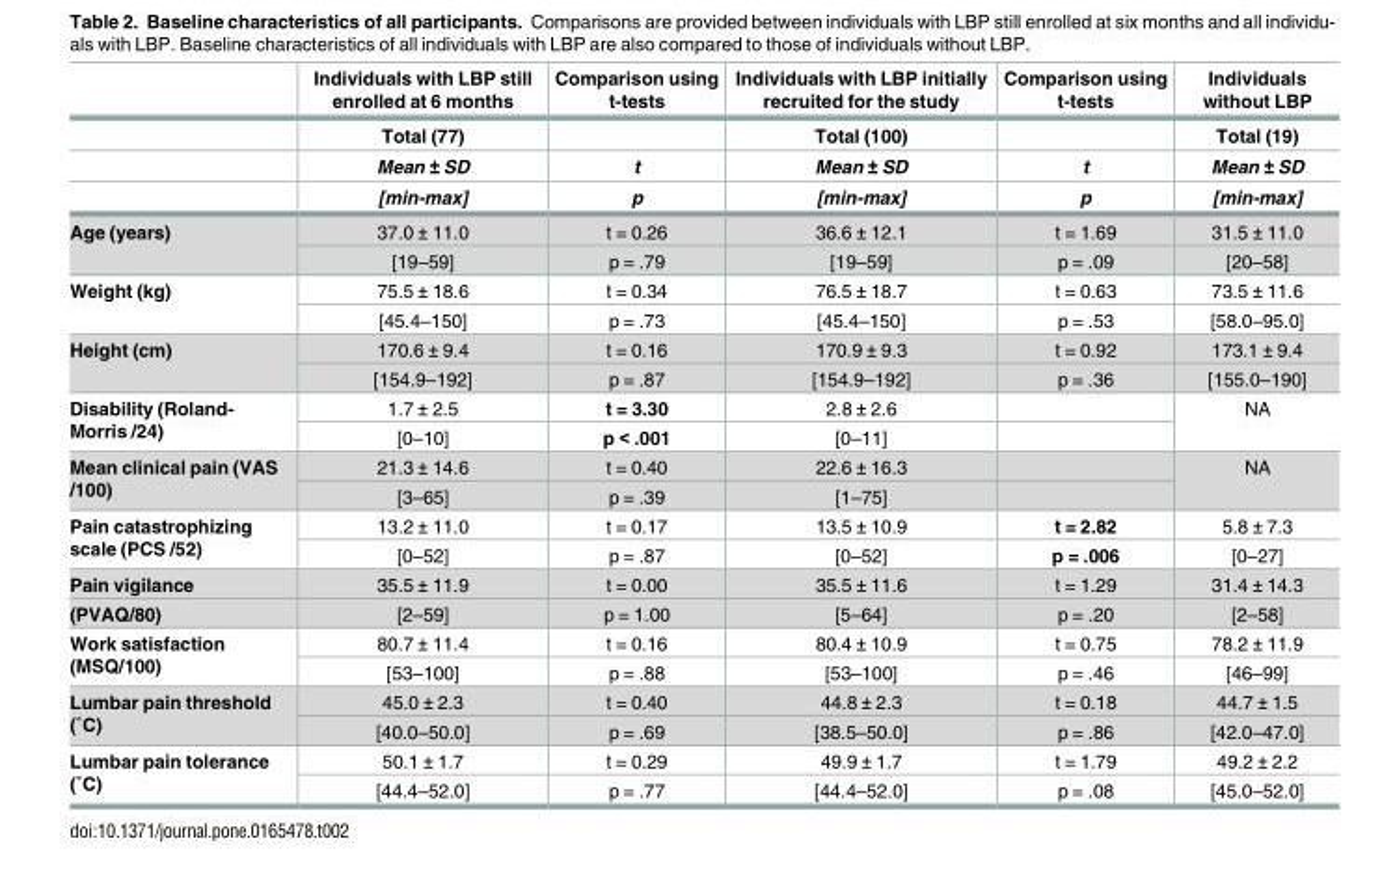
<table><thead><tr><td rowspan="4"></td><td rowspan="4">Individuals with LBP still enrolled at 6 months Total (77) Mean ± SD [min-max]</td><td rowspan="4">Comparison using t-tests t p</td><td rowspan="4">Individuals with LBP initially recruited for the study Total (100) Mean ± SD [min-max]</td><td rowspan="4">Comparison using t-tests t p</td><td rowspan="4">Individuals without LBP Total (19) Mean ± SD [min-max]</td></tr><tr></tr><tr></tr><tr></tr></thead><tbody><tr><td rowspan="2">Age (years)</td><td>37.0 ± 11.0</td><td>t = 0.26</td><td>36.6 ± 12.1</td><td>t = 1.69</td><td>31.5 ± 11.0</td></tr><tr><td>[19–59]</td><td>p = .79</td><td>[19–59]</td><td>p = .09</td><td>[20–58]</td></tr><tr><td rowspan="2">Weight (kg)</td><td>75.5 ± 18.6</td><td>t = 0.34</td><td>76.5 ± 18.7</td><td>t = 0.63</td><td>73.5 ± 11.6</td></tr><tr><td>[45.4–150]</td><td>p = .73</td><td>[45.4–150]</td><td>p = .53</td><td>[58.0–95.0]</td></tr><tr><td rowspan="2">Height (cm)</td><td>170.6 ± 9.4</td><td>t = 0.16</td><td>170.9 ± 9.3</td><td>t = 0.92</td><td>173.1 ± 9.4</td></tr><tr><td>[154.9–192]</td><td>p = .87</td><td>[154.9–192]</td><td>p = .36</td><td>[155.0–190]</td></tr><tr><td rowspan="2">Disability (Roland- Morris /24)</td><td>1.7 ± 2.5</td><td>t = 3.30</td><td>2.8 ± 2.6</td><td></td><td rowspan="2">NA</td></tr><tr><td>[0–10]</td><td>p &lt; .001</td><td>[0–11]</td><td></td></tr><tr><td rowspan="2">Mean clinical pain (VAS /100)</td><td>21.3 ± 14.6</td><td>t = 0.40</td><td>22.6 ± 16.3</td><td></td><td rowspan="2">NA</td></tr><tr><td>[3–65]</td><td>p = .39</td><td>[1–75]</td><td></td></tr><tr><td rowspan="2">Pain catastrophizing scale (PCS /52)</td><td>13.2 ± 11.0</td><td>t = 0.17</td><td>13.5 ± 10.9</td><td>t = 2.82</td><td>5.8 ± 7.3</td></tr><tr><td>[0–52]</td><td>p = .87</td><td>[0–52]</td><td>p = .006</td><td>[0–27]</td></tr><tr><td>Pain vigilance</td><td>35.5 ± 11.9</td><td>t = 0.00</td><td>35.5 ± 11.6</td><td>t = 1.29</td><td>31.4 ± 14.3</td></tr><tr><td>(PVAQ/80)</td><td>[2–59]</td><td>p = 1.00</td><td>[5–64]</td><td>p = .20</td><td>[2–58]</td></tr><tr><td rowspan="2">Work satisfaction (MSQ/100)</td><td>80.7 ± 11.4</td><td>t = 0.16</td><td>80.4 ± 10.9</td><td>t = 0.75</td><td>78.2 ± 11.9</td></tr><tr><td>[53–100]</td><td>p = .88</td><td>[53–100]</td><td>p = .46</td><td>[46–99]</td></tr><tr><td rowspan="2">Lumbar pain threshold (˚C)</td><td>45.0 ± 2.3</td><td>t = 0.40</td><td>44.8 ± 2.3</td><td>t = 0.18</td><td>44.7 ± 1.5</td></tr><tr><td>[40.0–50.0]</td><td>p = .69</td><td>[38.5–50.0]</td><td>p = .86</td><td>[42.0–47.0]</td></tr><tr><td rowspan="2">Lumbar pain tolerance (˚C)</td><td>50.1 ± 1.7</td><td>t = 0.29</td><td>49.9 ± 1.7</td><td>t = 1.79</td><td>49.2 ± 2.2</td></tr><tr><td>[44.4–52.0]</td><td>p = .77</td><td>[44.4–52.0]</td><td>p = .08</td><td>[45.0–52.0]</td></tr></tbody></table>